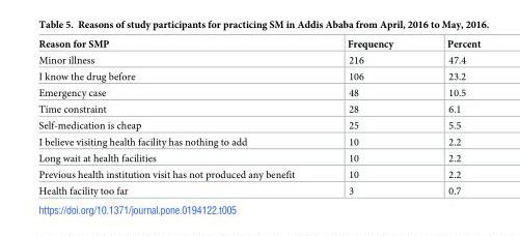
<table><thead><tr><td>Reason for SMP</td><td>Frequency</td><td>Percent</td></tr></thead><tbody><tr><td>Minor illness</td><td>216</td><td>47.4</td></tr><tr><td>I know the drug before</td><td>106</td><td>23.2</td></tr><tr><td>Emergency case</td><td>48</td><td>10.5</td></tr><tr><td>Time constraint</td><td>28</td><td>6.1</td></tr><tr><td>Self-medication is cheap</td><td>25</td><td>5.5</td></tr><tr><td>I believe visiting health facility has nothing to add</td><td>10</td><td>2.2</td></tr><tr><td>Long wait at health facilities</td><td>10</td><td>2.2</td></tr><tr><td>Previous health institution visit has not produced any benefit</td><td>10</td><td>2.2</td></tr><tr><td>Health facility too far</td><td>3</td><td>0.7</td></tr></tbody></table>